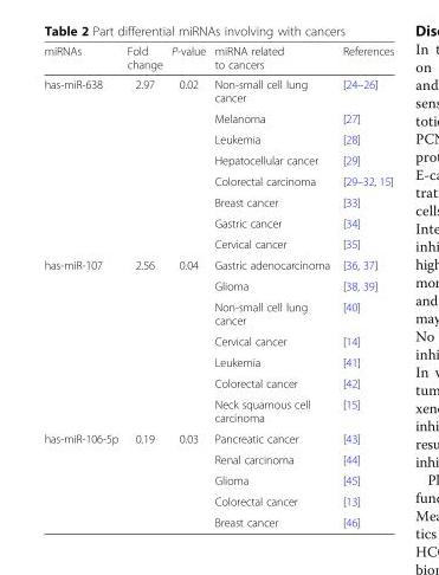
<table><thead><tr><td>miRNAs</td><td>Fold change</td><td>P-value</td><td>miRNA related to cancers</td><td>References</td></tr></thead><tbody><tr><td rowspan="8">has-miR-638</td><td>2.97</td><td>0.02</td><td>Non-small cell lung cancer</td><td>[24–26]</td></tr><tr><td></td><td></td><td>Melanoma</td><td>[27]</td></tr><tr><td></td><td></td><td>Leukemia</td><td>[28]</td></tr><tr><td></td><td></td><td>Hepatocellular cancer</td><td>[29]</td></tr><tr><td></td><td></td><td>Colorectal carcinoma</td><td>[29–32, 15]</td></tr><tr><td></td><td></td><td>Breast cancer</td><td>[33]</td></tr><tr><td></td><td></td><td>Gastric cancer</td><td>[34]</td></tr><tr><td></td><td></td><td>Cervical cancer</td><td>[35]</td></tr><tr><td rowspan="7">has-miR-107</td><td>2.56</td><td>0.04</td><td>Gastric adenocarcinoma</td><td>[36, 37]</td></tr><tr><td></td><td></td><td>Glioma</td><td>[38, 39]</td></tr><tr><td></td><td></td><td>Non-small cell lung cancer</td><td>[40]</td></tr><tr><td></td><td></td><td>Cervical cancer</td><td>[14]</td></tr><tr><td></td><td></td><td>Leukemia</td><td>[41]</td></tr><tr><td></td><td></td><td>Colorectal cancer</td><td>[42]</td></tr><tr><td></td><td></td><td>Neck squamous cell carcinoma</td><td>[15]</td></tr><tr><td rowspan="5">has-miR-106-5p</td><td>0.19</td><td>0.03</td><td>Pancreatic cancer</td><td>[43]</td></tr><tr><td></td><td></td><td>Renal carcinoma</td><td>[44]</td></tr><tr><td></td><td></td><td>Glioma</td><td>[45]</td></tr><tr><td></td><td></td><td>Colorectal cancer</td><td>[13]</td></tr><tr><td></td><td></td><td>Breast cancer</td><td>[46]</td></tr></tbody></table>